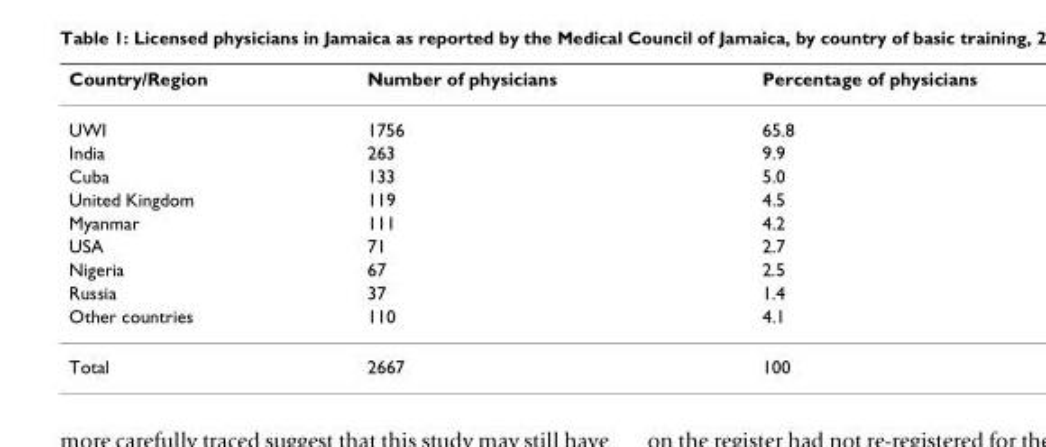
<table><thead><tr><td>Country/Region</td><td>Number of physicians</td><td>Percentage of physicians</td></tr></thead><tbody><tr><td>UWI</td><td>1756</td><td>65.8</td></tr><tr><td>India</td><td>263</td><td>9.9</td></tr><tr><td>Cuba</td><td>133</td><td>5.0</td></tr><tr><td>United Kingdom</td><td>119</td><td>4.5</td></tr><tr><td>Myanmar</td><td>111</td><td>4.2</td></tr><tr><td>USA</td><td>71</td><td>2.7</td></tr><tr><td>Nigeria</td><td>67</td><td>2.5</td></tr><tr><td>Russia</td><td>37</td><td>1.4</td></tr><tr><td>Other countries</td><td>110</td><td>4.1</td></tr><tr><td>Total</td><td>2667</td><td>100</td></tr></tbody></table>